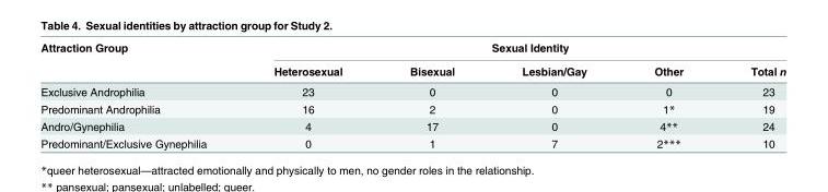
<table><thead><tr><td rowspan="2">Attraction Group</td><td colspan="5">Sexual Identity</td></tr><tr><td>Heterosexual</td><td>Bisexual</td><td>Lesbian/Gay</td><td>Other</td><td>Total n</td></tr></thead><tbody><tr><td>Exclusive Androphilia</td><td>23</td><td>0</td><td>0</td><td>0</td><td>23</td></tr><tr><td>Predominant Androphilia</td><td>16</td><td>2</td><td>0</td><td>1*</td><td>19</td></tr><tr><td>Andro/Gynephilia</td><td>4</td><td>17</td><td>0</td><td>4**</td><td>24</td></tr><tr><td>Predominant/Exclusive Gynephilia</td><td>0</td><td>1</td><td>7</td><td>2***</td><td>10</td></tr></tbody></table>